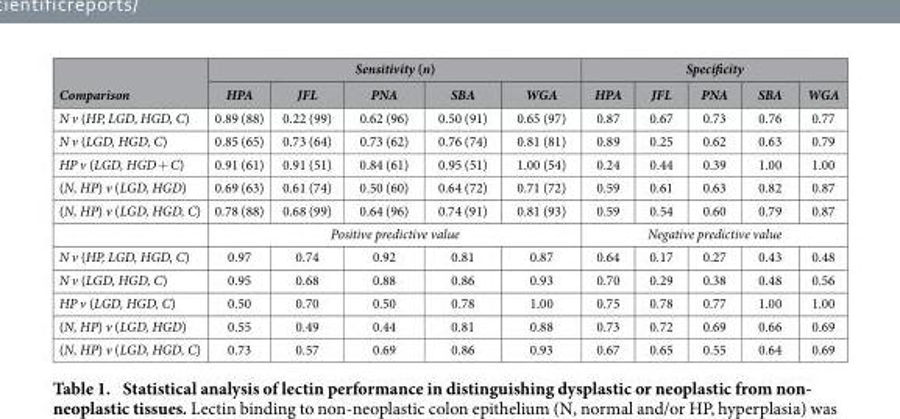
<table><thead><tr><td rowspan="2">Comparison</td><td colspan="5">Sensitivity (n)</td><td colspan="5">Specificity</td></tr><tr><td>HPA</td><td>JFL</td><td>PNA</td><td>SBA</td><td>WGA</td><td>HPA</td><td>JFL</td><td>PNA</td><td>SBA</td><td>WGA</td></tr></thead><tbody><tr><td>N v (HP, LGD, HGD, C)</td><td>0.89 (88)</td><td>0.22 (99)</td><td>0.62 (96)</td><td>0.50 (91)</td><td>0.65 (97)</td><td>0.87</td><td>0.67</td><td>0.73</td><td>0.76</td><td>0.77</td></tr><tr><td>N v (LGD, HGD, C)</td><td>0.85 (65)</td><td>0.73 (64)</td><td>0.73 (62)</td><td>0.76 (74)</td><td>0.81 (81)</td><td>0.89</td><td>0.25</td><td>0.62</td><td>0.63</td><td>0.79</td></tr><tr><td>HP v (LGD, HGD + C)</td><td>0.91 (61)</td><td>0.91 (51)</td><td>0.84 (61)</td><td>0.95 (51)</td><td>1.00 (54)</td><td>0.24</td><td>0.44</td><td>0.39</td><td>1.00</td><td>1.00</td></tr><tr><td>(N, HP) v (LGD, HGD)</td><td>0.69 (63)</td><td>0.61 (74)</td><td>0.50 (60)</td><td>0.64 (72)</td><td>0.71 (72)</td><td>0.59</td><td>0.61</td><td>0.63</td><td>0.82</td><td>0.87</td></tr><tr><td rowspan="2">(N, HP) v (LGD, HGD, C)</td><td>0.78 (88)</td><td>0.68 (99)</td><td>0.64 (96)</td><td>0.74 (91)</td><td>0.81 (93)</td><td>0.59</td><td>0.54</td><td>0.60</td><td>0.79</td><td>0.87</td></tr><tr><td colspan="5">Positive predictive value</td><td colspan="5">Negative predictive value</td></tr><tr><td>N v (HP, LGD, HGD, C)</td><td>0.97</td><td>0.74</td><td>0.92</td><td>0.81</td><td>0.87</td><td>0.64</td><td>0.17</td><td>0.27</td><td>0.43</td><td>0.48</td></tr><tr><td>N v (LGD, HGD, C)</td><td>0.95</td><td>0.68</td><td>0.88</td><td>0.86</td><td>0.93</td><td>0.70</td><td>0.29</td><td>0.38</td><td>0.48</td><td>0.56</td></tr><tr><td>HP v (LGD, HGD, C)</td><td>0.50</td><td>0.70</td><td>0.50</td><td>0.78</td><td>1.00</td><td>0.75</td><td>0.78</td><td>0.77</td><td>1.00</td><td>1.00</td></tr><tr><td>(N, HP) v (LGD, HGD)</td><td>0.55</td><td>0.49</td><td>0.44</td><td>0.81</td><td>0.88</td><td>0.73</td><td>0.72</td><td>0.69</td><td>0.66</td><td>0.69</td></tr><tr><td>(N, HP) v (LGD, HGD, C)</td><td>0.73</td><td>0.57</td><td>0.69</td><td>0.86</td><td>0.93</td><td>0.67</td><td>0.65</td><td>0.55</td><td>0.64</td><td>0.69</td></tr></tbody></table>